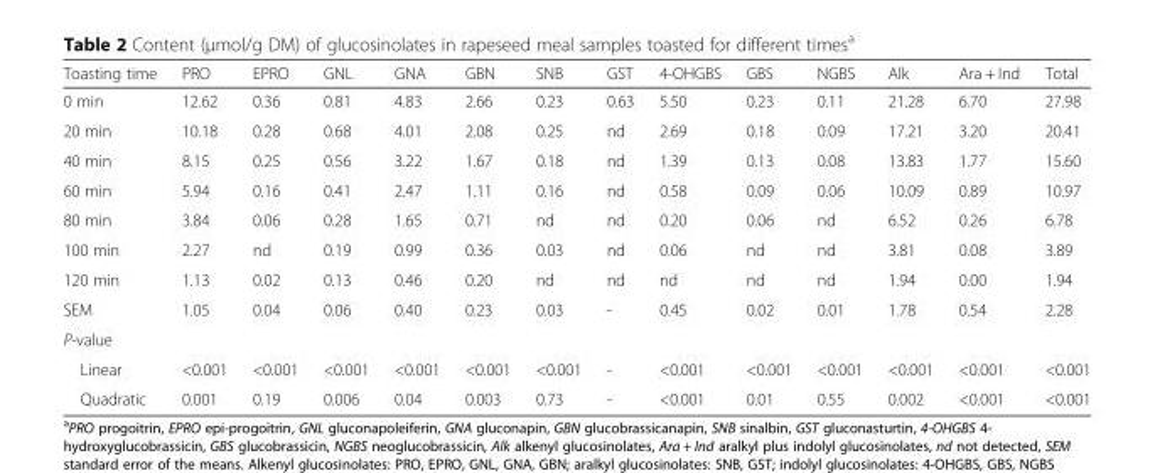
<table><thead><tr><td>Toasting time</td><td>PRO</td><td>EPRO</td><td>GNL</td><td>GNA</td><td>GBN</td><td>SNB</td><td>GST</td><td>4-OHGBS</td><td>GBS</td><td>NGBS</td><td>Alk</td><td>Ara + Ind</td><td>Total</td></tr></thead><tbody><tr><td>0 min</td><td>12.62</td><td>0.36</td><td>0.81</td><td>4.83</td><td>2.66</td><td>0.23</td><td>0.63</td><td>5.50</td><td>0.23</td><td>0.11</td><td>21.28</td><td>6.70</td><td>27.98</td></tr><tr><td>20 min</td><td>10.18</td><td>0.28</td><td>0.68</td><td>4.01</td><td>2.08</td><td>0.25</td><td>nd</td><td>2.69</td><td>0.18</td><td>0.09</td><td>17.21</td><td>3.20</td><td>20.41</td></tr><tr><td>40 min</td><td>8.15</td><td>0.25</td><td>0.56</td><td>3.22</td><td>1.67</td><td>0.18</td><td>nd</td><td>1.39</td><td>0.13</td><td>0.08</td><td>13.83</td><td>1.77</td><td>15.60</td></tr><tr><td>60 min</td><td>5.94</td><td>0.16</td><td>0.41</td><td>2.47</td><td>1.11</td><td>0.16</td><td>nd</td><td>0.58</td><td>0.09</td><td>0.06</td><td>10.09</td><td>0.89</td><td>10.97</td></tr><tr><td>80 min</td><td>3.84</td><td>0.06</td><td>0.28</td><td>1.65</td><td>0.71</td><td>nd</td><td>nd</td><td>0.20</td><td>0.06</td><td>nd</td><td>6.52</td><td>0.26</td><td>6.78</td></tr><tr><td>100 min</td><td>2.27</td><td>nd</td><td>0.19</td><td>0.99</td><td>0.36</td><td>0.03</td><td>nd</td><td>0.06</td><td>nd</td><td>nd</td><td>3.81</td><td>0.08</td><td>3.89</td></tr><tr><td>120 min</td><td>1.13</td><td>0.02</td><td>0.13</td><td>0.46</td><td>0.20</td><td>nd</td><td>nd</td><td>nd</td><td>nd</td><td>nd</td><td>1.94</td><td>0.00</td><td>1.94</td></tr><tr><td>SEM</td><td>1.05</td><td>0.04</td><td>0.06</td><td>0.40</td><td>0.23</td><td>0.03</td><td>-</td><td>0.45</td><td>0.02</td><td>0.01</td><td>1.78</td><td>0.54</td><td>2.28</td></tr><tr><td colspan="14">P-value</td></tr><tr><td>Linear</td><td>&lt;0.001</td><td>&lt;0.001</td><td>&lt;0.001</td><td>&lt;0.001</td><td>&lt;0.001</td><td>&lt;0.001</td><td>-</td><td>&lt;0.001</td><td>&lt;0.001</td><td>&lt;0.001</td><td>&lt;0.001</td><td>&lt;0.001</td><td>&lt;0.001</td></tr><tr><td>Quadratic</td><td>0.001</td><td>0.19</td><td>0.006</td><td>0.04</td><td>0.003</td><td>0.73</td><td>-</td><td>&lt;0.001</td><td>0.01</td><td>0.55</td><td>0.002</td><td>&lt;0.001</td><td>&lt;0.001</td></tr></tbody></table>